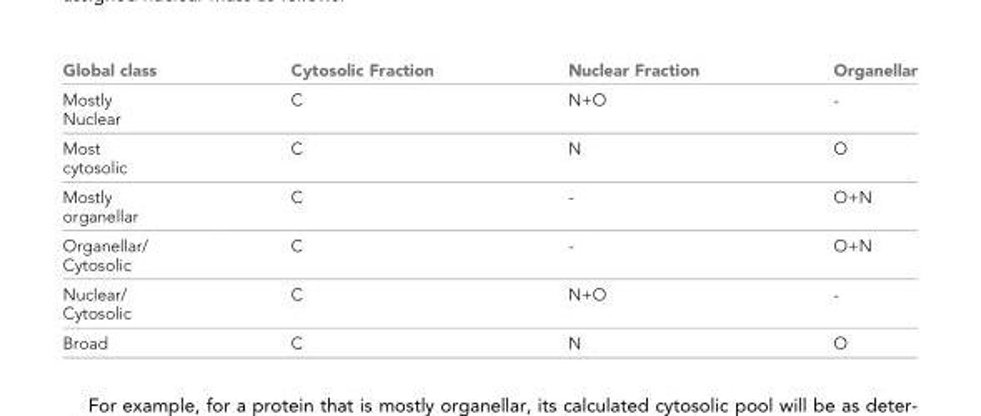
<table><thead><tr><td>Global class</td><td>Cytosolic Fraction</td><td>Nuclear Fraction</td><td>Organellar</td></tr></thead><tbody><tr><td>Mostly Nuclear</td><td>C</td><td>N+O</td><td>-</td></tr><tr><td>Most cytosolic</td><td>C</td><td>N</td><td>O</td></tr><tr><td>Mostly organellar</td><td>C</td><td>-</td><td>O+N</td></tr><tr><td>Organellar/ Cytosolic</td><td>C</td><td>-</td><td>O+N</td></tr><tr><td>Nuclear/ Cytosolic</td><td>C</td><td>N+O</td><td>-</td></tr><tr><td>Broad</td><td>C</td><td>N</td><td>O</td></tr></tbody></table>